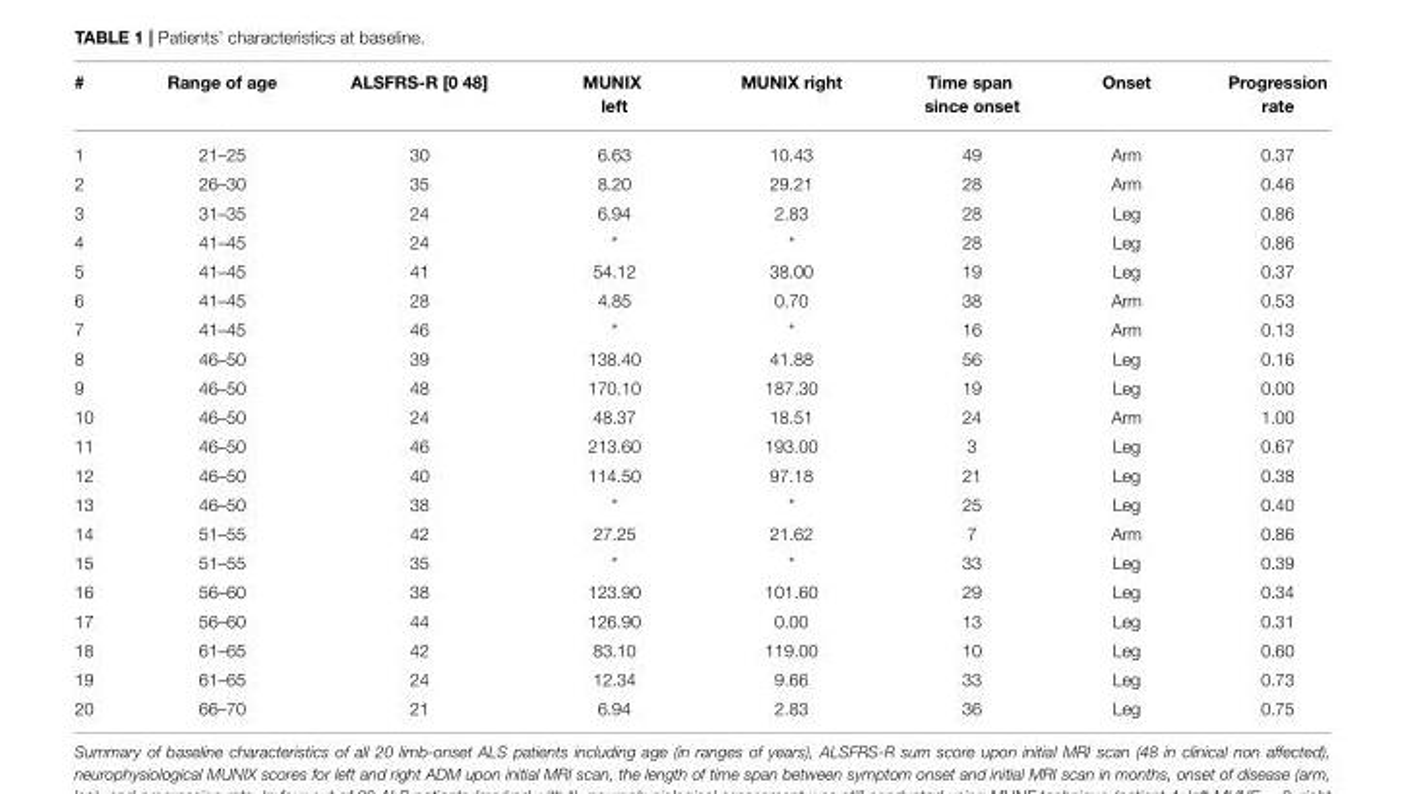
<table><thead><tr><td>#</td><td>Range of age</td><td>ALSFRS-R [0 48]</td><td>MUNIX left</td><td>MUNIX right</td><td>Time span since onset</td><td>Onset</td><td>Progression rate</td></tr></thead><tbody><tr><td>1</td><td>21–25</td><td>30</td><td>6.63</td><td>10.43</td><td>49</td><td>Arm</td><td>0.37</td></tr><tr><td>2</td><td>26–30</td><td>35</td><td>8.20</td><td>29.21</td><td>28</td><td>Arm</td><td>0.46</td></tr><tr><td>3</td><td>31–35</td><td>24</td><td>6.94</td><td>2.83</td><td>28</td><td>Leg</td><td>0.86</td></tr><tr><td>4</td><td>41–45</td><td>24</td><td>*</td><td>*</td><td>28</td><td>Leg</td><td>0.86</td></tr><tr><td>5</td><td>41–45</td><td>41</td><td>54.12</td><td>38.00</td><td>19</td><td>Leg</td><td>0.37</td></tr><tr><td>6</td><td>41–45</td><td>28</td><td>4.85</td><td>0.70</td><td>38</td><td>Arm</td><td>0.53</td></tr><tr><td>7</td><td>41–45</td><td>46</td><td>*</td><td>*</td><td>16</td><td>Arm</td><td>0.13</td></tr><tr><td>8</td><td>46–50</td><td>39</td><td>138.40</td><td>41.88</td><td>56</td><td>Leg</td><td>0.16</td></tr><tr><td>9</td><td>46–50</td><td>48</td><td>170.10</td><td>187.30</td><td>19</td><td>Leg</td><td>0.00</td></tr><tr><td>10</td><td>46–50</td><td>24</td><td>48.37</td><td>18.51</td><td>24</td><td>Arm</td><td>1.00</td></tr><tr><td>11</td><td>46–50</td><td>46</td><td>213.60</td><td>193.00</td><td>3</td><td>Leg</td><td>0.67</td></tr><tr><td>12</td><td>46–50</td><td>40</td><td>114.50</td><td>97.18</td><td>21</td><td>Leg</td><td>0.38</td></tr><tr><td>13</td><td>46–50</td><td>38</td><td>*</td><td>*</td><td>25</td><td>Leg</td><td>0.40</td></tr><tr><td>14</td><td>51–55</td><td>42</td><td>27.25</td><td>21.62</td><td>7</td><td>Arm</td><td>0.86</td></tr><tr><td>15</td><td>51–55</td><td>35</td><td>*</td><td>*</td><td>33</td><td>Leg</td><td>0.39</td></tr><tr><td>16</td><td>56–60</td><td>38</td><td>123.90</td><td>101.60</td><td>29</td><td>Leg</td><td>0.34</td></tr><tr><td>17</td><td>56–60</td><td>44</td><td>126.90</td><td>0.00</td><td>13</td><td>Leg</td><td>0.31</td></tr><tr><td>18</td><td>61–65</td><td>42</td><td>83.10</td><td>119.00</td><td>10</td><td>Leg</td><td>0.60</td></tr><tr><td>19</td><td>61–65</td><td>24</td><td>12.34</td><td>9.66</td><td>33</td><td>Leg</td><td>0.73</td></tr><tr><td>20</td><td>66–70</td><td>21</td><td>6.94</td><td>2.83</td><td>36</td><td>Leg</td><td>0.75</td></tr></tbody></table>